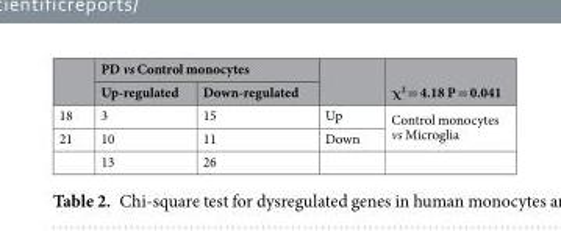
<table><thead><tr><td rowspan="2"></td><td colspan="2">PD vs Control monocytes</td><td rowspan="2"></td><td rowspan="2">χ<sup>2</sup> = 4.18 P = 0.041</td></tr><tr><td>Up-regulated</td><td>Down-regulated</td></tr></thead><tbody><tr><td>18</td><td>3</td><td>15</td><td>Up</td><td rowspan="2">Control monocytes vs Microglia</td></tr><tr><td rowspan="2">21</td><td>10</td><td>11</td><td>Down</td></tr><tr><td>13</td><td>26</td><td></td><td></td></tr></tbody></table>